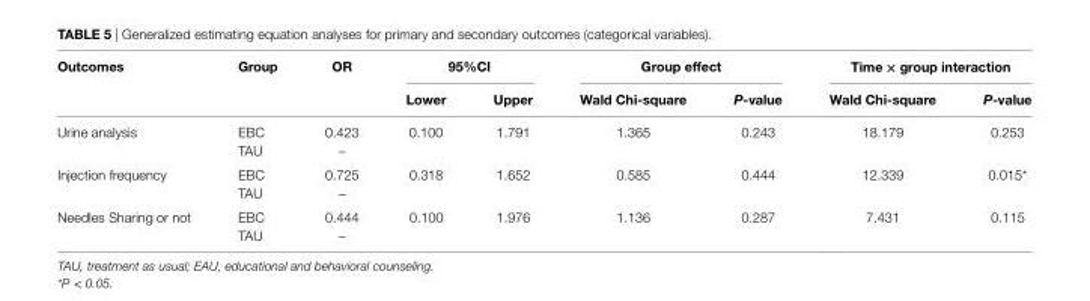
<table><thead><tr><td rowspan="2">Outcomes</td><td rowspan="2">group</td><td rowspan="2">Or</td><td colspan="2">95%Ci</td><td colspan="2">group effect</td><td colspan="2">Time × group interaction</td></tr><tr><td>lower</td><td>Upper</td><td>Wald Chi-square</td><td>P-value</td><td>Wald Chi-square</td><td>P-value</td></tr></thead><tbody><tr><td rowspan="2">Urine analysis</td><td>EBC</td><td>0.423</td><td>0.100</td><td>1.791</td><td>1.365</td><td>0.243</td><td>18.179</td><td>0.253</td></tr><tr><td>TAU</td><td>–</td><td></td><td></td><td></td><td></td><td></td><td></td></tr><tr><td rowspan="2">Injection frequency</td><td>EBC</td><td>0.725</td><td>0.318</td><td>1.652</td><td>0.585</td><td>0.444</td><td>12.339</td><td>0.015*</td></tr><tr><td>TAU</td><td>–</td><td></td><td></td><td></td><td></td><td></td><td></td></tr><tr><td rowspan="2">Needles Sharing or not</td><td>EBC</td><td>0.444</td><td>0.100</td><td>1.976</td><td>1.136</td><td>0.287</td><td>7.431</td><td>0.115</td></tr><tr><td>TAU</td><td>–</td><td></td><td></td><td></td><td></td><td></td><td></td></tr></tbody></table>